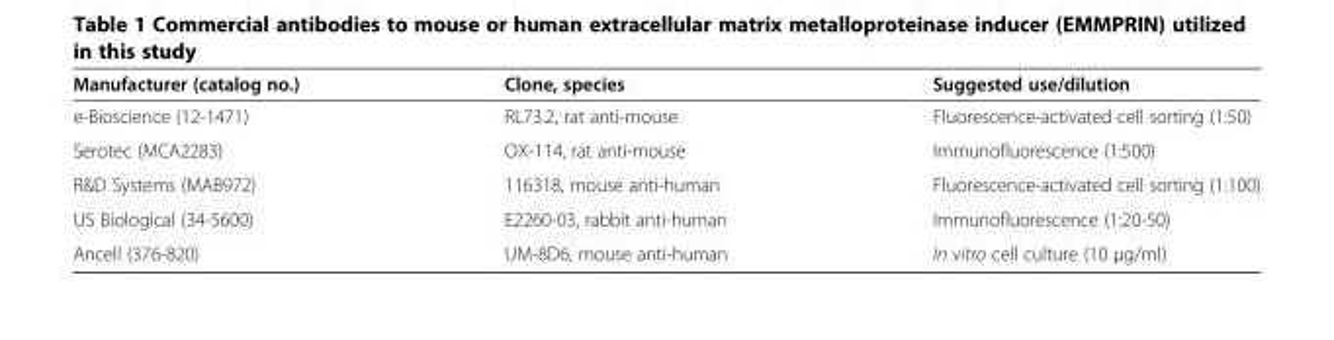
<table><thead><tr><td>Manufacturer (catalog no.)</td><td>Clone, species</td><td>Suggested use/dilution</td></tr></thead><tbody><tr><td>e-Bioscience (12-1471)</td><td>RL73.2, rat anti-mouse</td><td>Fluorescence-activated cell sorting (1:50)</td></tr><tr><td>Serotec (MCA2283)</td><td>OX-114, rat anti-mouse</td><td>Immunofluorescence (1:500)</td></tr><tr><td>R&amp;D Systems (MAB972)</td><td>116318, mouse anti-human</td><td>Fluorescence-activated cell sorting (1:100)</td></tr><tr><td>US Biological (34-5600)</td><td>E2260-03, rabbit anti-human</td><td>Immunofluorescence (1:20-50)</td></tr><tr><td>Ancell (376-820)</td><td>UM-8D6, mouse anti-human</td><td>In vitro cell culture (10 μg/ml)</td></tr></tbody></table>